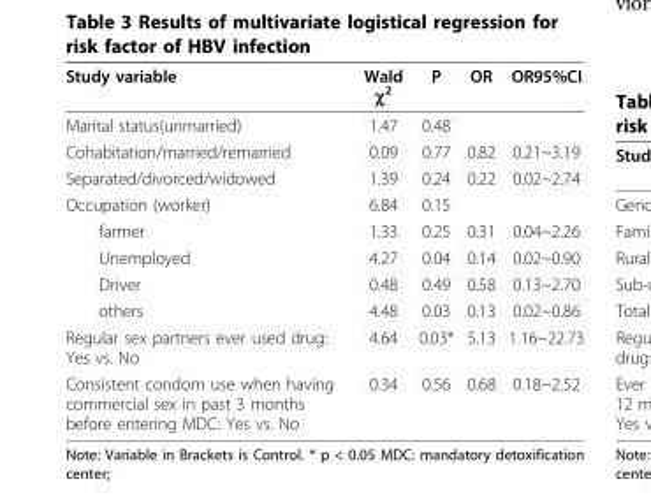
<table><thead><tr><td>Study variable</td><td>Wald χ<sup>2</sup></td><td>P</td><td>OR</td><td>OR95%CI</td></tr></thead><tbody><tr><td>Marital status(unmarried)</td><td>1.47</td><td>0.48</td><td></td><td></td></tr><tr><td>Cohabitation/married/remarried</td><td>0.09</td><td>0.77</td><td>0.82</td><td>0.21~3.19</td></tr><tr><td>Separated/divorced/widowed</td><td>1.39</td><td>0.24</td><td>0.22</td><td>0.02~2.74</td></tr><tr><td>Occupation (worker)</td><td>6.84</td><td>0.15</td><td></td><td></td></tr><tr><td>farmer</td><td>1.33</td><td>0.25</td><td>0.31</td><td>0.04~2.26</td></tr><tr><td>Unemployed</td><td>4.27</td><td>0.04</td><td>0.14</td><td>0.02~0.90</td></tr><tr><td>Driver</td><td>0.48</td><td>0.49</td><td>0.58</td><td>0.13~2.70</td></tr><tr><td>others</td><td>4.48</td><td>0.03</td><td>0.13</td><td>0.02~0.86</td></tr><tr><td>Regular sex partners ever used drug: Yes vs. No</td><td>4.64</td><td>0.03*</td><td>5.13</td><td>1.16~22.73</td></tr><tr><td>Consistent condom use when having commercial sex in past 3 months before entering MDC: Yes vs. No</td><td>0.34</td><td>0.56</td><td>0.68</td><td>0.18~2.52</td></tr></tbody></table>